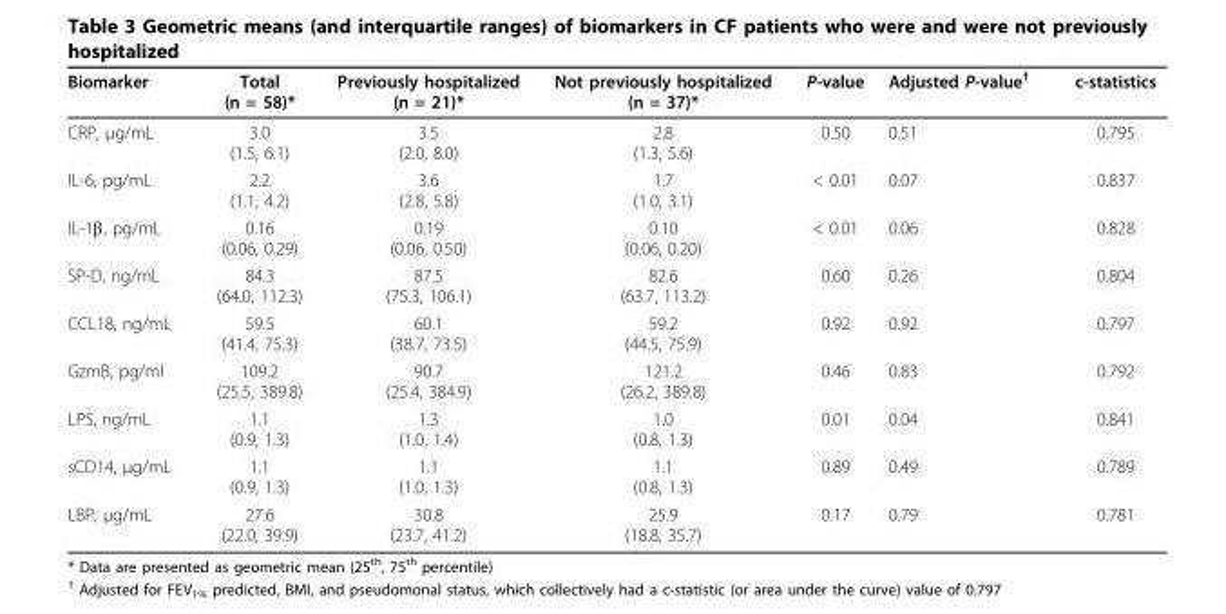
<table><thead><tr><td>Biomarker</td><td>Total (n = 58)*</td><td>Previously hospitalized (n = 21)*</td><td>Not previously hospitalized (n = 37)*</td><td>P-value</td><td>Adjusted P-value<sup>†</sup></td><td>c-statistics</td></tr></thead><tbody><tr><td>CRP, μg/mL</td><td>3.0 (1.5, 6.1)</td><td>3.5 (2.0, 8.0)</td><td>2.8 (1.3, 5.6)</td><td>0.50</td><td>0.51</td><td>0.795</td></tr><tr><td>IL-6, pg/mL</td><td>2.2 (1.1, 4.2)</td><td>3.6 (2.8, 5.8)</td><td>1.7 (1.0, 3.1)</td><td>&lt; 0.01</td><td>0.07</td><td>0.837</td></tr><tr><td>IL-1β, pg/mL</td><td>0.16 (0.06, 0.29)</td><td>0.19 (0.06, 0.50)</td><td>0.10 (0.06, 0.20)</td><td>&lt; 0.01</td><td>0.06</td><td>0.828</td></tr><tr><td>SP-D, ng/mL</td><td>84.3 (64.0, 112.3)</td><td>87.5 (75.3, 106.1)</td><td>82.6 (63.7, 113.2)</td><td>0.60</td><td>0.26</td><td>0.804</td></tr><tr><td>CCL18, ng/mL</td><td>59.5 (41.4, 75.3)</td><td>60.1 (38.7, 73.5)</td><td>59.2 (44.5, 75.9)</td><td>0.92</td><td>0.92</td><td>0.797</td></tr><tr><td>GzmB, pg/ml</td><td>109.2 (25.5, 389.8)</td><td>90.7 (25.4, 384.9)</td><td>121.2 (26.2, 389.8)</td><td>0.46</td><td>0.83</td><td>0.792</td></tr><tr><td>LPS, ng/mL</td><td>1.1 (0.9, 1.3)</td><td>1.3 (1.0, 1.4)</td><td>1.0 (0.8, 1.3)</td><td>0.01</td><td>0.04</td><td>0.841</td></tr><tr><td>sCD14, μg/mL</td><td>1.1 (0.9, 1.3)</td><td>1.1 (1.0, 1.3)</td><td>1.1 (0.8, 1.3)</td><td>0.89</td><td>0.49</td><td>0.789</td></tr><tr><td>LBP, μg/mL</td><td>27.6 (22.0, 39.9)</td><td>30.8 (23.7, 41.2)</td><td>25.9 (18.8, 35.7)</td><td>0.17</td><td>0.79</td><td>0.781</td></tr></tbody></table>